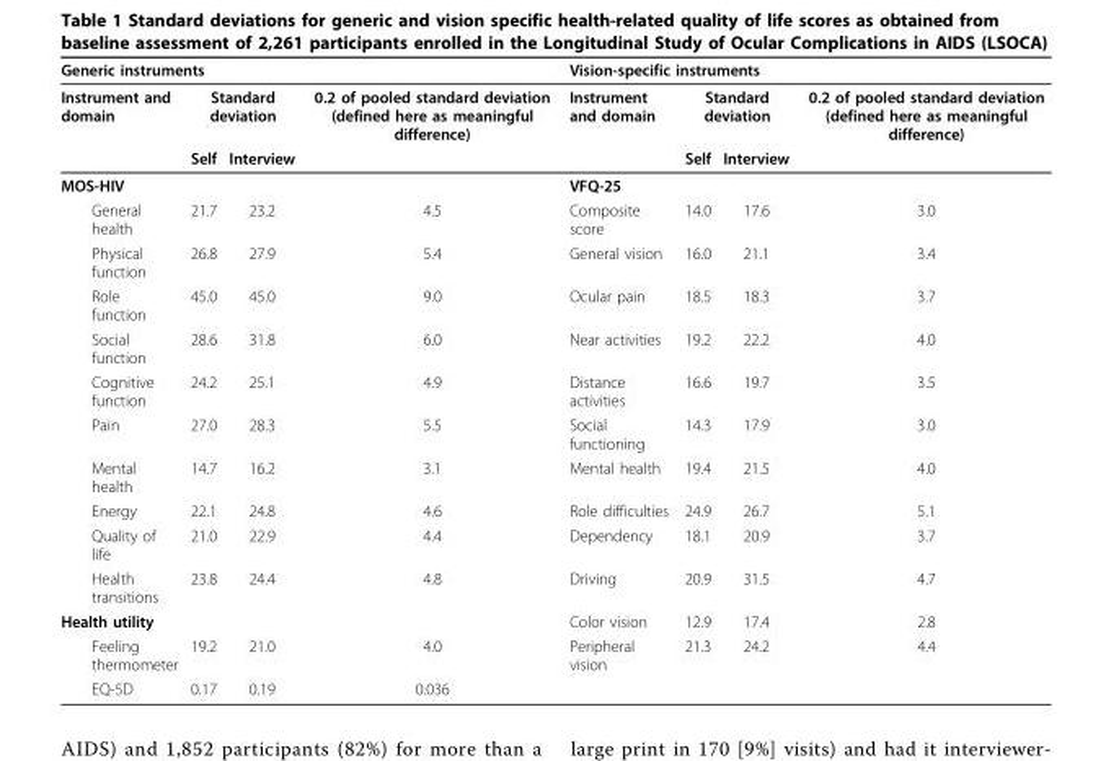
<table><thead><tr><td colspan="4">Generic instruments</td><td colspan="4">Vision-specific instruments</td></tr><tr><td rowspan="2">Instrument and domain</td><td colspan="2">Standard deviation</td><td rowspan="2">0.2 of pooled standard deviation (defined here as meaningful difference)</td><td rowspan="2">Instrument and domain</td><td colspan="2">Standard deviation</td><td rowspan="2">0.2 of pooled standard deviation (defined here as meaningful difference)</td></tr><tr><td>Self</td><td>Interview</td><td>Self</td><td>Interview</td></tr></thead><tbody><tr><td>MOS-HIV</td><td></td><td></td><td></td><td>VFQ-25</td><td></td><td></td><td></td></tr><tr><td>General health</td><td>21.7</td><td>23.2</td><td>4.5</td><td>Composite score</td><td>14.0</td><td>17.6</td><td>3.0</td></tr><tr><td>Physical function</td><td>26.8</td><td>27.9</td><td>5.4</td><td>General vision</td><td>16.0</td><td>21.1</td><td>3.4</td></tr><tr><td>Role function</td><td>45.0</td><td>45.0</td><td>9.0</td><td>Ocular pain</td><td>18.5</td><td>18.3</td><td>3.7</td></tr><tr><td>Social function</td><td>28.6</td><td>31.8</td><td>6.0</td><td>Near activities</td><td>19.2</td><td>22.2</td><td>4.0</td></tr><tr><td>Cognitive function</td><td>24.2</td><td>25.1</td><td>4.9</td><td>Distance activities</td><td>16.6</td><td>19.7</td><td>3.5</td></tr><tr><td>Pain</td><td>27.0</td><td>28.3</td><td>5.5</td><td>Social functioning</td><td>14.3</td><td>17.9</td><td>3.0</td></tr><tr><td>Mental health</td><td>14.7</td><td>16.2</td><td>3.1</td><td>Mental health</td><td>19.4</td><td>21.5</td><td>4.0</td></tr><tr><td>Energy</td><td>22.1</td><td>24.8</td><td>4.6</td><td>Role difficulties</td><td>24.9</td><td>26.7</td><td>5.1</td></tr><tr><td>Quality of life</td><td>21.0</td><td>22.9</td><td>4.4</td><td>Dependency</td><td>18.1</td><td>20.9</td><td>3.7</td></tr><tr><td>Health transitions</td><td>23.8</td><td>24.4</td><td>4.8</td><td>Driving</td><td>20.9</td><td>31.5</td><td>4.7</td></tr><tr><td>Health utility</td><td></td><td></td><td></td><td>Color vision</td><td>12.9</td><td>17.4</td><td>2.8</td></tr><tr><td>Feeling thermometer</td><td>19.2</td><td>21.0</td><td>4.0</td><td>Peripheral vision</td><td>21.3</td><td>24.2</td><td>4.4</td></tr><tr><td>EQ-5D</td><td>0.17</td><td>0.19</td><td>0.036</td><td></td><td></td><td></td><td></td></tr></tbody></table>